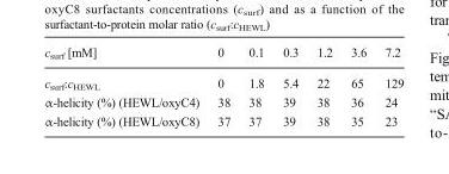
<table><thead><tr><td>c<sub>surf</sub> [mM]</td><td>0</td><td>0.1</td><td>0.3</td><td>1.2</td><td>3.6</td><td>7.2</td></tr></thead><tbody><tr><td>c<sub>surf</sub>:c<sub>HEWL</sub></td><td>0</td><td>1.8</td><td>5.4</td><td>22</td><td>65</td><td>129</td></tr><tr><td>α-helicity (%) (HEWL/oxyC4)</td><td>38</td><td>38</td><td>39</td><td>38</td><td>36</td><td>24</td></tr><tr><td>α-helicity (%) (HEWL/oxyC8)</td><td>37</td><td>37</td><td>39</td><td>38</td><td>35</td><td>23</td></tr></tbody></table>